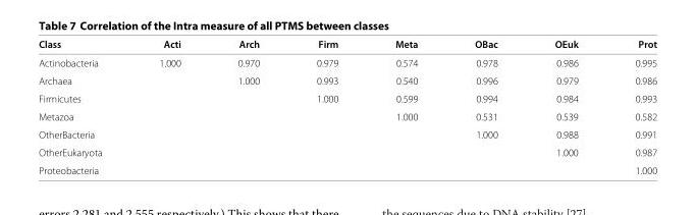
<table><thead><tr><td>Class</td><td>Acti</td><td>Arch</td><td>Firm</td><td>Meta</td><td>OBac</td><td>OEuk</td><td>Prot</td></tr></thead><tbody><tr><td>Actinobacteria</td><td>1.000</td><td>0.970</td><td>0.979</td><td>0.574</td><td>0.978</td><td>0.986</td><td>0.995</td></tr><tr><td>Archaea</td><td></td><td>1.000</td><td>0.993</td><td>0.540</td><td>0.996</td><td>0.979</td><td>0.986</td></tr><tr><td>Firmicutes</td><td></td><td></td><td>1.000</td><td>0.599</td><td>0.994</td><td>0.984</td><td>0.993</td></tr><tr><td>Metazoa</td><td></td><td></td><td></td><td>1.000</td><td>0.531</td><td>0.539</td><td>0.582</td></tr><tr><td>OtherBacteria</td><td></td><td></td><td></td><td></td><td>1.000</td><td>0.988</td><td>0.991</td></tr><tr><td>OtherEukaryota</td><td></td><td></td><td></td><td></td><td></td><td>1.000</td><td>0.987</td></tr><tr><td>Proteobacteria</td><td></td><td></td><td></td><td></td><td></td><td></td><td>1.000</td></tr></tbody></table>